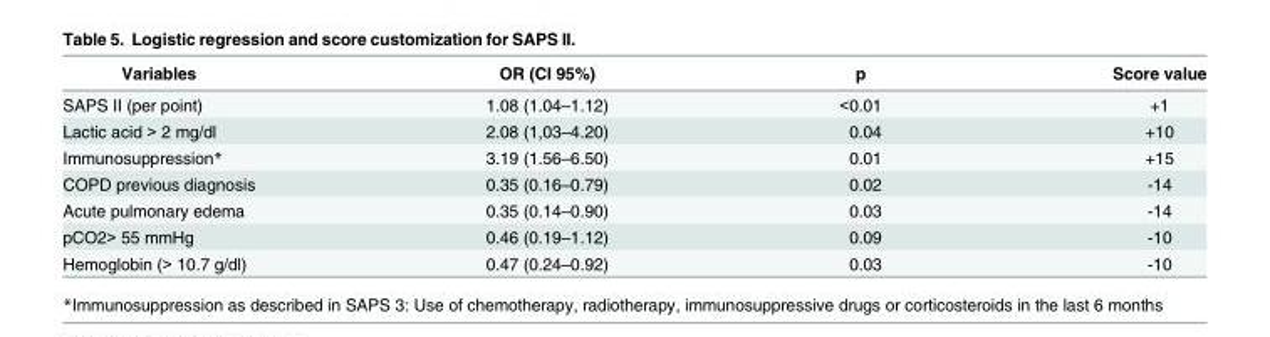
<table><thead><tr><td>Variables</td><td>OR (CI 95%)</td><td>p</td><td>Score value</td></tr></thead><tbody><tr><td>SAPS II (per point)</td><td>1.08 (1.04–1.12)</td><td>&lt;0.01</td><td>+1</td></tr><tr><td>Lactic acid &gt; 2 mg/dl</td><td>2.08 (1,03–4.20)</td><td>0.04</td><td>+10</td></tr><tr><td>Immunosuppression*</td><td>3.19 (1.56–6.50)</td><td>0.01</td><td>+15</td></tr><tr><td>COPD previous diagnosis</td><td>0.35 (0.16–0.79)</td><td>0.02</td><td>-14</td></tr><tr><td>Acute pulmonary edema</td><td>0.35 (0.14–0.90)</td><td>0.03</td><td>-14</td></tr><tr><td>pCO2&gt; 55 mmHg</td><td>0.46 (0.19–1.12)</td><td>0.09</td><td>-10</td></tr><tr><td>Hemoglobin (&gt; 10.7 g/dl)</td><td>0.47 (0.24–0.92)</td><td>0.03</td><td>-10</td></tr></tbody></table>